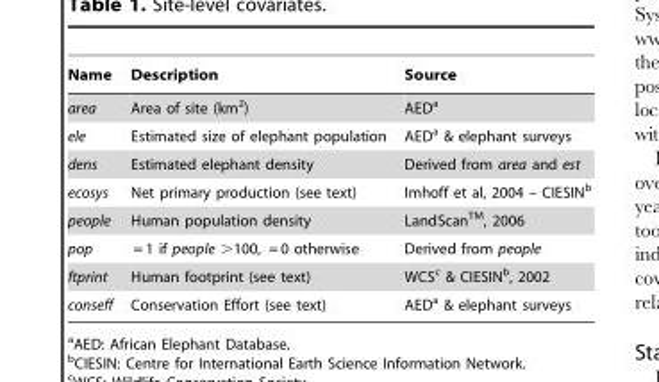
<table><thead><tr><td>Name</td><td>Description</td><td>Source</td></tr></thead><tbody><tr><td>area</td><td>Area of site (km<sup>2</sup>)</td><td>AED<sup>a</sup></td></tr><tr><td>ele</td><td>Estimated size of elephant population</td><td>AED<sup>a</sup> &amp; elephant surveys</td></tr><tr><td>dens</td><td>Estimated elephant density</td><td>Derived from area and est</td></tr><tr><td>ecosys</td><td>Net primary production (see text)</td><td>Imhoff et al, 2004 – CIESIN<sup>b</sup></td></tr><tr><td>people</td><td>Human population density</td><td>LandScanTM, 2006</td></tr><tr><td>pop</td><td>= 1 if people &gt;100, = 0 otherwise</td><td>Derived from people</td></tr><tr><td>ftprint</td><td>Human footprint (see text)</td><td>WCS<sup>c</sup> &amp; CIESIN<sup>b</sup>, 2002</td></tr><tr><td>conseff</td><td>Conservation Effort (see text)</td><td>AED<sup>a</sup> &amp; elephant surveys</td></tr></tbody></table>